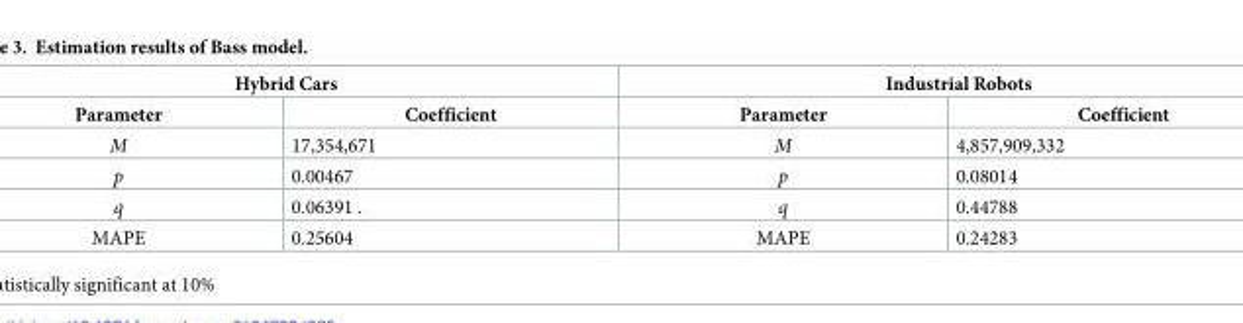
<table><thead><tr><td colspan="2">Hybrid Cars</td><td colspan="2">Industrial Robots</td></tr><tr><td>Parameter</td><td>Coefficient</td><td>Parameter</td><td>Coefficient</td></tr></thead><tbody><tr><td>M</td><td>17,354,671</td><td>M</td><td>4,857,909,332</td></tr><tr><td>p</td><td>0.00467</td><td>p</td><td>0.08014</td></tr><tr><td>q</td><td>0.06391 .</td><td>q</td><td>0.44788</td></tr><tr><td>MAPE</td><td>0.25604</td><td>MAPE</td><td>0.24283</td></tr></tbody></table>